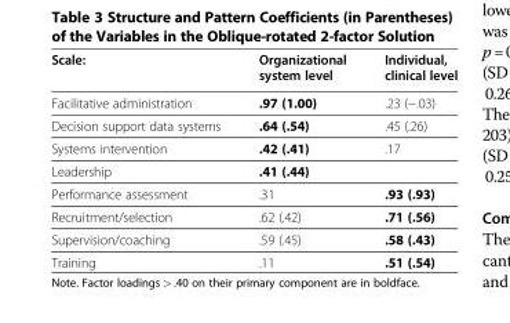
<table><thead><tr><td>Scale:</td><td>Organizational system level</td><td>Individual, clinical level</td></tr></thead><tbody><tr><td>Facilitative administration</td><td>.97 (1.00)</td><td>.23 (−.03)</td></tr><tr><td>Decision support data systems</td><td>.64 (.54)</td><td>.45 (.26)</td></tr><tr><td>Systems intervention</td><td>.42 (.41)</td><td>.17</td></tr><tr><td>Leadership</td><td>.41 (.44)</td><td></td></tr><tr><td>Performance assessment</td><td>.31</td><td>.93 (.93)</td></tr><tr><td>Recruitment/selection</td><td>.62 (.42)</td><td>.71 (.56)</td></tr><tr><td>Supervision/coaching</td><td>.59 (.45)</td><td>.58 (.43)</td></tr><tr><td>Training</td><td>.11</td><td>.51 (.54)</td></tr></tbody></table>